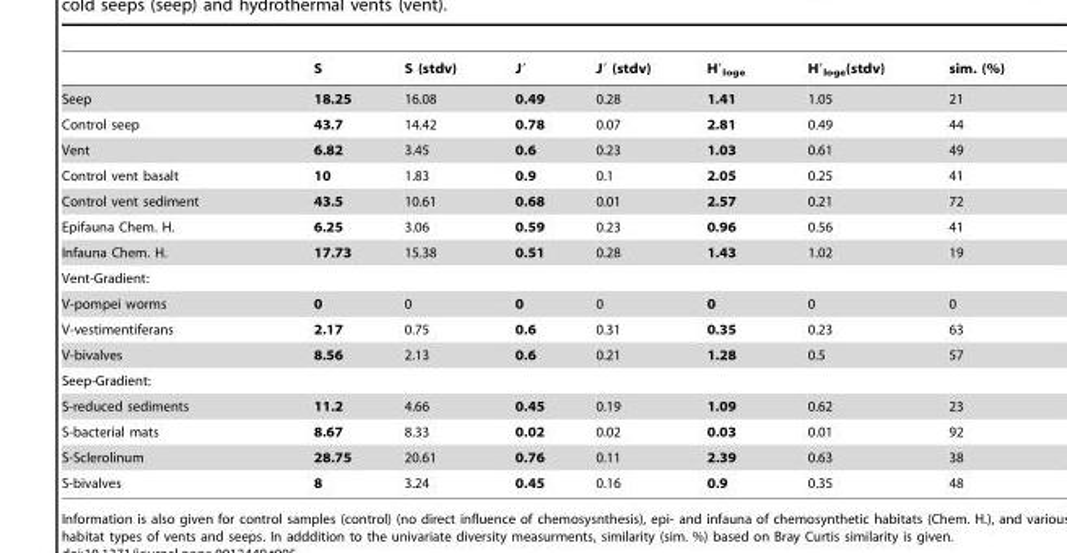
<table><thead><tr><td></td><td>S</td><td>S (stdv)</td><td>J′</td><td>J′ (stdv)</td><td>H′<sub>loge</sub></td><td>H′<sub>loge</sub>(stdv)</td><td>sim. (%)</td></tr></thead><tbody><tr><td>Seep</td><td>18.25</td><td>16.08</td><td>0.49</td><td>0.28</td><td>1.41</td><td>1.05</td><td>21</td></tr><tr><td>Control seep</td><td>43.7</td><td>14.42</td><td>0.78</td><td>0.07</td><td>2.81</td><td>0.49</td><td>44</td></tr><tr><td>Vent</td><td>6.82</td><td>3.45</td><td>0.6</td><td>0.23</td><td>1.03</td><td>0.61</td><td>49</td></tr><tr><td>Control vent basalt</td><td>10</td><td>1.83</td><td>0.9</td><td>0.1</td><td>2.05</td><td>0.25</td><td>41</td></tr><tr><td>Control vent sediment</td><td>43.5</td><td>10.61</td><td>0.68</td><td>0.01</td><td>2.57</td><td>0.21</td><td>72</td></tr><tr><td>Epifauna Chem. H.</td><td>6.25</td><td>3.06</td><td>0.59</td><td>0.23</td><td>0.96</td><td>0.56</td><td>41</td></tr><tr><td>Infauna Chem. H.</td><td>17.73</td><td>15.38</td><td>0.51</td><td>0.28</td><td>1.43</td><td>1.02</td><td>19</td></tr><tr><td colspan="8">Vent-Gradient:</td></tr><tr><td>V-pompei worms</td><td>0</td><td>0</td><td>0</td><td>0</td><td>0</td><td>0</td><td>0</td></tr><tr><td>V-vestimentiferans</td><td>2.17</td><td>0.75</td><td>0.6</td><td>0.31</td><td>0.35</td><td>0.23</td><td>63</td></tr><tr><td>V-bivalves</td><td>8.56</td><td>2.13</td><td>0.6</td><td>0.21</td><td>1.28</td><td>0.5</td><td>57</td></tr><tr><td colspan="8">Seep-Gradient:</td></tr><tr><td>S-reduced sediments</td><td>11.2</td><td>4.66</td><td>0.45</td><td>0.19</td><td>1.09</td><td>0.62</td><td>23</td></tr><tr><td>S-bacterial mats</td><td>8.67</td><td>8.33</td><td>0.02</td><td>0.02</td><td>0.03</td><td>0.01</td><td>92</td></tr><tr><td>S-Sclerolinum</td><td>28.75</td><td>20.61</td><td>0.76</td><td>0.11</td><td>2.39</td><td>0.63</td><td>38</td></tr><tr><td>S-bivalves</td><td>8</td><td>3.24</td><td>0.45</td><td>0.16</td><td>0.9</td><td>0.35</td><td>48</td></tr></tbody></table>